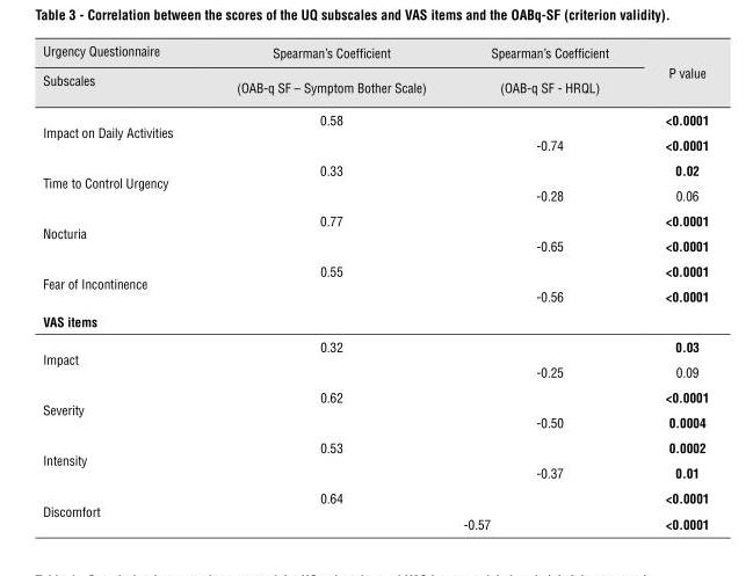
<table><thead><tr><td rowspan="2">Urgency Questionnaire Subscales</td><td rowspan="2">Spearman’s Coefficient (OAB-q SF – Symptom Bother Scale)</td><td rowspan="2">Spearman’s Coefficient (OAB-q SF - HRQL)</td><td rowspan="2">P value</td></tr><tr></tr></thead><tbody><tr><td rowspan="2">Impact on Daily Activities</td><td>0.58</td><td></td><td>&lt;0.0001</td></tr><tr><td></td><td>-0.74</td><td>&lt;0.0001</td></tr><tr><td rowspan="2">Time to Control Urgency</td><td>0.33</td><td></td><td>0.02</td></tr><tr><td></td><td>-0.28</td><td>0.06</td></tr><tr><td rowspan="2">Nocturia</td><td>0.77</td><td></td><td>&lt;0.0001</td></tr><tr><td></td><td>-0.65</td><td>&lt;0.0001</td></tr><tr><td rowspan="2">Fear of Incontinence</td><td>0.55</td><td></td><td>&lt;0.0001</td></tr><tr><td></td><td>-0.56</td><td>&lt;0.0001</td></tr><tr><td colspan="4">vAS items</td></tr><tr><td rowspan="2">Impact</td><td>0.32</td><td></td><td>0.03</td></tr><tr><td></td><td>-0.25</td><td>0.09</td></tr><tr><td rowspan="2">Severity</td><td>0.62</td><td></td><td>&lt;0.0001</td></tr><tr><td></td><td>-0.50</td><td>0.0004</td></tr><tr><td rowspan="2">Intensity</td><td>0.53</td><td></td><td>0.0002</td></tr><tr><td></td><td>-0.37</td><td>0.01</td></tr><tr><td rowspan="2">Discomfort</td><td>0.64</td><td></td><td>&lt;0.0001</td></tr><tr><td colspan="2">-0.57</td><td>&lt;0.0001</td></tr></tbody></table>